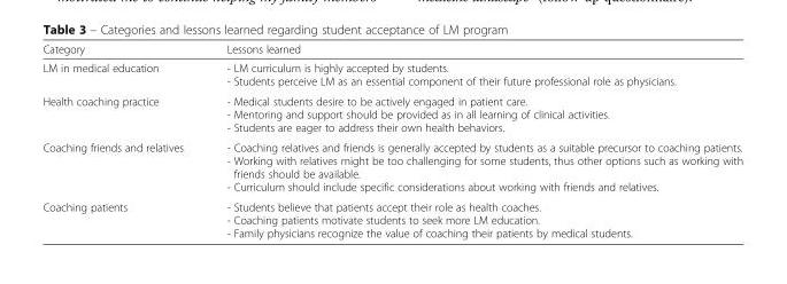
<table><thead><tr><td>Category</td><td>Lessons learned</td></tr></thead><tbody><tr><td>LM in medical education</td><td>- LM curriculum is highly accepted by students. - Students perceive LM as an essential component of their future professional role as physicians.</td></tr><tr><td>Health coaching practice</td><td>- Medical students desire to be actively engaged in patient care. - Mentoring and support should be provided as in all learning of clinical activities. - Students are eager to address their own health behaviors.</td></tr><tr><td>Coaching friends and relatives</td><td>- Coaching relatives and friends is generally accepted by students as a suitable precursor to coaching patients. - Working with relatives might be too challenging for some students, thus other options such as working with friends should be available. - Curriculum should include specific considerations about working with friends and relatives.</td></tr><tr><td>Coaching patients</td><td>- Students believe that patients accept their role as health coaches. - Coaching patients motivate students to seek more LM education. - Family physicians recognize the value of coaching their patients by medical students.</td></tr></tbody></table>